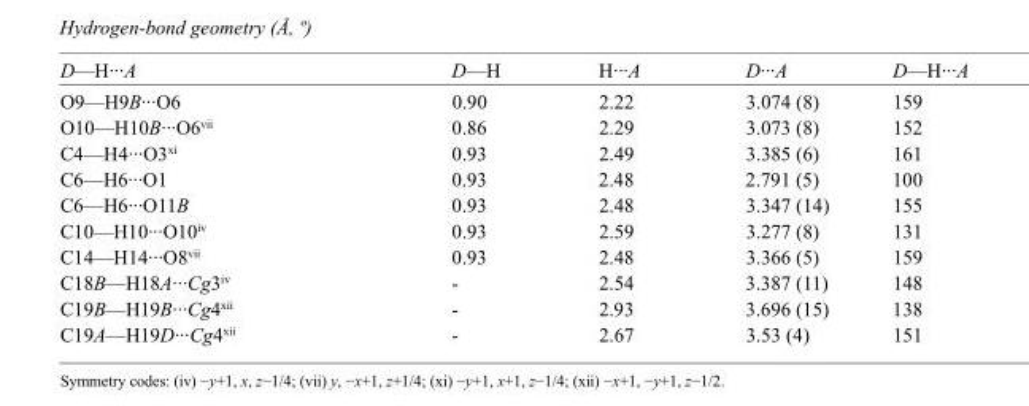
<table><tbody><tr><td>D—H···A</td><td>D—H</td><td>H···A</td><td>D···A</td><td>D—H···A</td></tr><tr><td>O9—H9B···O6</td><td>0.90</td><td>2.22</td><td>3.074 (8)</td><td>159</td></tr><tr><td>O10—H10B···O6<sup>vii</sup></td><td>0.86</td><td>2.29</td><td>3.073 (8)</td><td>152</td></tr><tr><td>C4—H4···O3<sup>xi</sup></td><td>0.93</td><td>2.49</td><td>3.385 (6)</td><td>161</td></tr><tr><td>C6—H6···O1</td><td>0.93</td><td>2.48</td><td>2.791 (5)</td><td>100</td></tr><tr><td>C6—H6···O11B</td><td>0.93</td><td>2.48</td><td>3.347 (14)</td><td>155</td></tr><tr><td>C10—H10···O10<sup>iv</sup></td><td>0.93</td><td>2.59</td><td>3.277 (8)</td><td>131</td></tr><tr><td>C14—H14···O8<sup>vii</sup></td><td>0.93</td><td>2.48</td><td>3.366 (5)</td><td>159</td></tr><tr><td>C18B—H18A···Cg3<sup>iv</sup></td><td>-</td><td>2.54</td><td>3.387 (11)</td><td>148</td></tr><tr><td>C19B—H19B···Cg4<sup>xii</sup></td><td>-</td><td>2.93</td><td>3.696 (15)</td><td>138</td></tr><tr><td>C19A—H19D···Cg4<sup>xii</sup></td><td>-</td><td>2.67</td><td>3.53 (4)</td><td>151</td></tr></tbody></table>